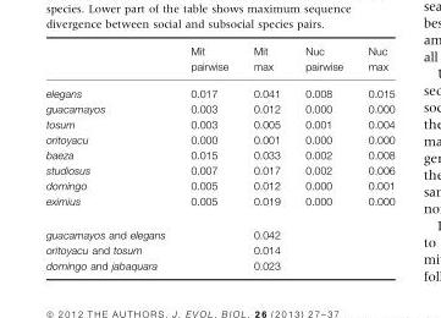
<table><thead><tr><td></td><td>Mit pairwise</td><td>Mit max</td><td>Nuc pairwise</td><td>Nuc max</td></tr></thead><tbody><tr><td>elegans</td><td>0.017</td><td>0.041</td><td>0.008</td><td>0.015</td></tr><tr><td>guacamayos</td><td>0.003</td><td>0.012</td><td>0.000</td><td>0.000</td></tr><tr><td>tosum</td><td>0.003</td><td>0.005</td><td>0.001</td><td>0.004</td></tr><tr><td>oritoyacu</td><td>0.000</td><td>0.001</td><td>0.000</td><td>0.000</td></tr><tr><td>baeza</td><td>0.015</td><td>0.033</td><td>0.002</td><td>0.008</td></tr><tr><td>studiosus</td><td>0.007</td><td>0.017</td><td>0.002</td><td>0.006</td></tr><tr><td>domingo</td><td>0.005</td><td>0.012</td><td>0.000</td><td>0.001</td></tr><tr><td>eximius</td><td>0.005</td><td>0.019</td><td>0.000</td><td>0.000</td></tr><tr><td>guacamayos and elegans</td><td></td><td>0.042</td><td></td><td></td></tr><tr><td>oritoyacu and tosum</td><td></td><td>0.014</td><td></td><td></td></tr><tr><td>domingo and jabaquara</td><td></td><td>0.023</td><td></td><td></td></tr></tbody></table>